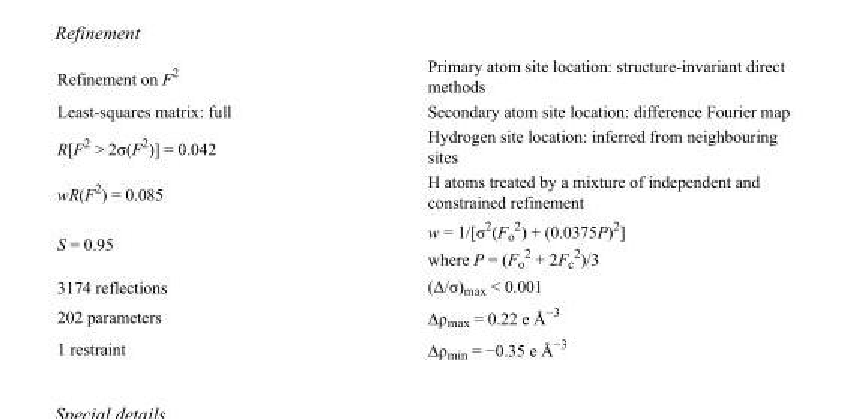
<table><tbody><tr><td>Refinement on F<sup>2</sup></td><td>Primary atom site location: structure-invariant direct methods</td></tr><tr><td>Least-squares matrix: full</td><td>Secondary atom site location: difference Fourier map</td></tr><tr><td>R[F<sup>2</sup> &gt; 2σ(F<sup>2</sup>)] = 0.042</td><td>Hydrogen site location: inferred from neighbouring sites</td></tr><tr><td>wR(F<sup>2</sup>) = 0.085</td><td>H atoms treated by a mixture of independent and constrained refinement</td></tr><tr><td>S = 0.95</td><td>w = 1/[σ<sup>2</sup>(F<sub>o</sub> <sup>2</sup>) + (0.0375P)<sup>2</sup>] where P = (F<sub>o</sub> <sup>2</sup> + 2F<sub>c</sub> <sup>2</sup>)/3</td></tr><tr><td>3174 reflections</td><td>(Δ/σ)<sub>max</sub> &lt; 0.001</td></tr><tr><td>202 parameters</td><td>Δρ<sub>max</sub> = 0.22 e Å<sup>−3</sup></td></tr><tr><td>1 restraint</td><td>Δρ<sub>min</sub> = −0.35 e Å<sup>−3</sup></td></tr></tbody></table>